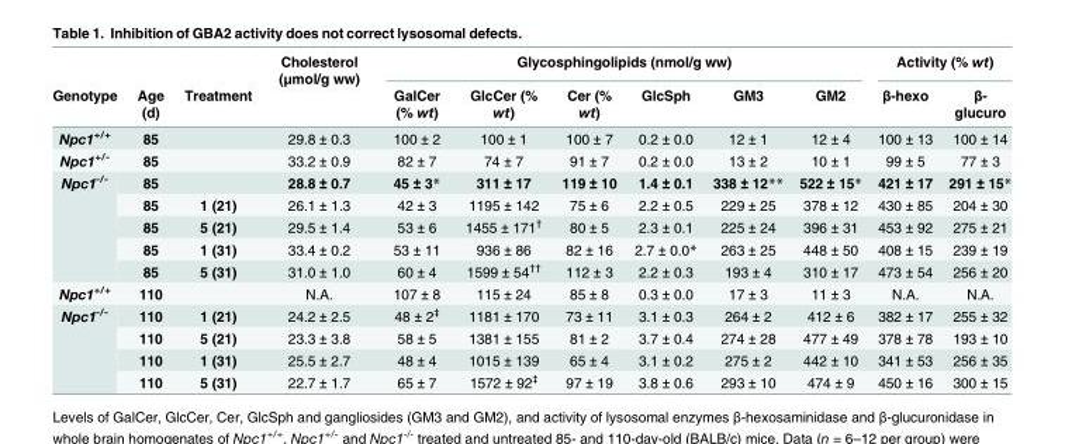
<table><thead><tr><td rowspan="2">Genotype</td><td rowspan="2">Age (d)</td><td rowspan="2">Treatment</td><td rowspan="2">Cholesterol (μmol/g ww)</td><td colspan="6">Glycosphingolipids (nmol/g ww)</td><td colspan="2">Activity (% wt)</td></tr><tr><td>GalCer (% wt)</td><td>GlcCer (% wt)</td><td>Cer (% wt)</td><td>GlcSph</td><td>GM3</td><td>GM2</td><td>β-hexo</td><td>β- glucuro</td></tr></thead><tbody><tr><td>Npc1<sup>+/+</sup></td><td>85</td><td></td><td>29.8 ± 0.3</td><td>100 ± 2</td><td>100 ± 1</td><td>100 ± 7</td><td>0.2 ± 0.0</td><td>12 ± 1</td><td>12 ± 4</td><td>100 ± 13</td><td>100 ± 14</td></tr><tr><td>Npc1<sup>+/-</sup></td><td>85</td><td></td><td>33.2 ± 0.9</td><td>82 ± 7</td><td>74 ± 7</td><td>91 ± 7</td><td>0.2 ± 0.0</td><td>13 ± 2</td><td>10 ± 1</td><td>99 ± 5</td><td>77 ± 3</td></tr><tr><td rowspan="5">Npc1<sup>-/-</sup></td><td>85</td><td></td><td>28.8 ± 0.7</td><td>45 ± 3*</td><td>311 ± 17</td><td>119 ± 10</td><td>1.4 ± 0.1</td><td>338 ± 12**</td><td>522 ± 15*</td><td>421 ± 17</td><td>291 ± 15*</td></tr><tr><td>85</td><td>1 (21)</td><td>26.1 ± 1.3</td><td>42 ± 3</td><td>1195 ± 142</td><td>75 ± 6</td><td>2.2 ± 0.5</td><td>229 ± 25</td><td>378 ± 12</td><td>430 ± 85</td><td>204 ± 30</td></tr><tr><td>85</td><td>5 (21)</td><td>29.5 ± 1.4</td><td>53 ± 6</td><td>1455 ± 171<sup>†</sup></td><td>80 ± 5</td><td>2.3 ± 0.1</td><td>225 ± 24</td><td>396 ± 31</td><td>453 ± 92</td><td>275 ± 21</td></tr><tr><td>85</td><td>1 (31)</td><td>33.4 ± 0.2</td><td>53 ± 11</td><td>936 ± 86</td><td>82 ± 16</td><td>2.7 ± 0.0*</td><td>263 ± 25</td><td>448 ± 50</td><td>408 ± 15</td><td>239 ± 19</td></tr><tr><td>85</td><td>5 (31)</td><td>31.0 ± 1.0</td><td>60 ± 4</td><td>1599 ± 54<sup>††</sup></td><td>112 ± 3</td><td>2.2 ± 0.3</td><td>193 ± 4</td><td>310 ± 17</td><td>473 ± 54</td><td>256 ± 20</td></tr><tr><td>Npc1<sup>+/+</sup></td><td>110</td><td></td><td>N.A.</td><td>107 ± 8</td><td>115 ± 24</td><td>85 ± 8</td><td>0.3 ± 0.0</td><td>17 ± 3</td><td>11 ± 3</td><td>N.A.</td><td>N.A.</td></tr><tr><td rowspan="4">Npc1<sup>-/-</sup></td><td>110</td><td>1 (21)</td><td>24.2 ± 2.5</td><td>48 ± 2<sup>‡</sup></td><td>1181 ± 170</td><td>73 ± 11</td><td>3.1 ± 0.3</td><td>264 ± 2</td><td>412 ± 6</td><td>382 ± 17</td><td>255 ± 32</td></tr><tr><td>110</td><td>5 (21)</td><td>23.3 ± 3.8</td><td>58 ± 5</td><td>1381 ± 155</td><td>81 ± 2</td><td>3.7 ± 0.4</td><td>274 ± 28</td><td>477 ± 49</td><td>378 ± 78</td><td>193 ± 10</td></tr><tr><td>110</td><td>1 (31)</td><td>25.5 ± 2.7</td><td>48 ± 4</td><td>1015 ± 139</td><td>65 ± 4</td><td>3.1 ± 0.2</td><td>275 ± 2</td><td>442 ± 10</td><td>341 ± 53</td><td>256 ± 35</td></tr><tr><td>110</td><td>5 (31)</td><td>22.7 ± 1.7</td><td>65 ± 7</td><td>1572 ± 92<sup>‡</sup></td><td>97 ± 19</td><td>3.8 ± 0.6</td><td>293 ± 10</td><td>474 ± 9</td><td>450 ± 16</td><td>300 ± 15</td></tr></tbody></table>